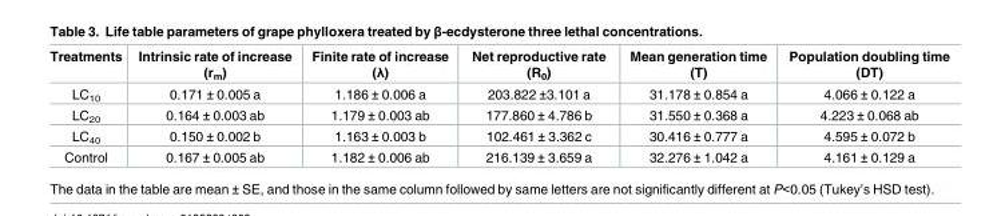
<table><thead><tr><td>Treatments</td><td>Intrinsic rate of increase (r<sub>m</sub>)</td><td>Finite rate of increase (λ)</td><td>Net reproductive rate (R<sub>0</sub>)</td><td>Mean generation time (T)</td><td>Population doubling time (DT)</td></tr></thead><tbody><tr><td>LC<sub>10</sub></td><td>0.171 ± 0.005 a</td><td>1.186 ± 0.006 a</td><td>203.822 ±3.101 a</td><td>31.178 ± 0.854 a</td><td>4.066 ± 0.122 a</td></tr><tr><td>LC<sub>20</sub></td><td>0.164 ± 0.003 ab</td><td>1.179 ± 0.003 ab</td><td>177.860 ± 4.786 b</td><td>31.550 ± 0.368 a</td><td>4.223 ± 0.068 ab</td></tr><tr><td>LC<sub>40</sub></td><td>0.150 ± 0.002 b</td><td>1.163 ± 0.003 b</td><td>102.461 ± 3.362 c</td><td>30.416 ± 0.777 a</td><td>4.595 ± 0.072 b</td></tr><tr><td>Control</td><td>0.167 ± 0.005 ab</td><td>1.182 ± 0.006 ab</td><td>216.139 ± 3.659 a</td><td>32.276 ± 1.042 a</td><td>4.161 ± 0.129 a</td></tr></tbody></table>